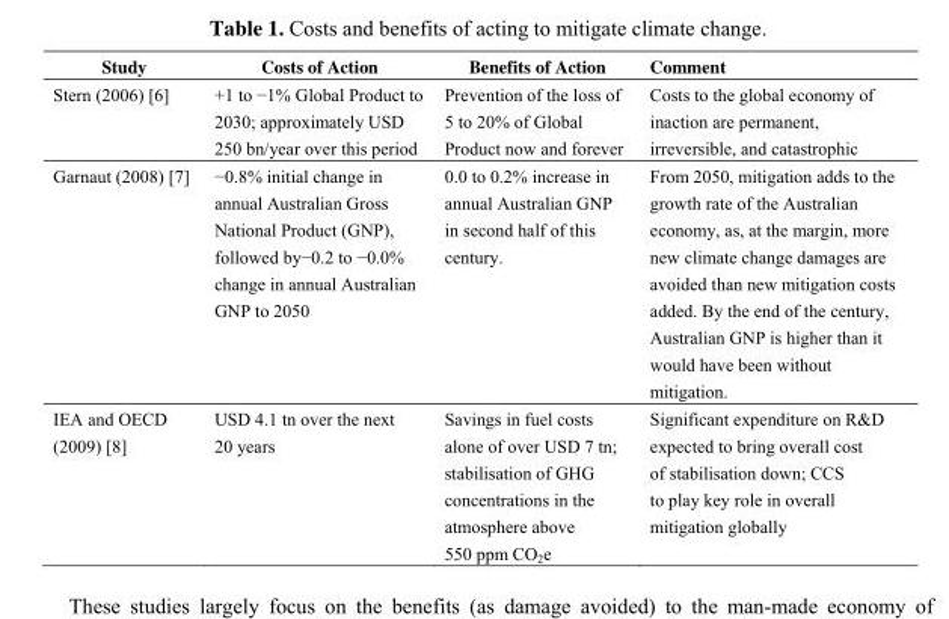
<table><thead><tr><td>Study</td><td>Costs of Action</td><td>Benefits of Action</td><td>Comment</td></tr></thead><tbody><tr><td>Stern (2006) [6]</td><td>+1 to −1% Global Product to 2030; approximately USD 250 bn/year over this period</td><td>Prevention of the loss of 5 to 20% of Global Product now and forever</td><td>Costs to the global economy of inaction are permanent, irreversible, and catastrophic</td></tr><tr><td>Garnaut (2008) [7]</td><td>−0.8% initial change in annual Australian Gross National Product (GNP), followed by−0.2 to −0.0% change in annual Australian GNP to 2050</td><td>0.0 to 0.2% increase in annual Australian GNP in second half of this century.</td><td>From 2050, mitigation adds to the growth rate of the Australian economy, as, at the margin, more new climate change damages are avoided than new mitigation costs added. By the end of the century, Australian GNP is higher than it would have been without mitigation.</td></tr><tr><td>IEA and OECD (2009) [8]</td><td>USD 4.1 tn over the next 20 years</td><td>Savings in fuel costs alone of over USD 7 tn; stabilisation of GHG concentrations in the atmosphere above 550 ppm CO<sub>2</sub>e</td><td>Significant expenditure on R&amp;D expected to bring overall cost of stabilisation down; CCS to play key role in overall mitigation globally</td></tr></tbody></table>